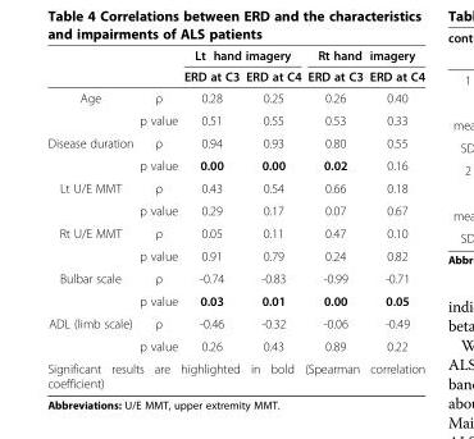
<table><thead><tr><td rowspan="2"></td><td rowspan="2"></td><td colspan="2">Lt hand imagery</td><td colspan="2">Rt hand imagery</td></tr><tr><td>ERD at C3</td><td>ERD at C4</td><td>ERD at C3</td><td>ERD at C4</td></tr></thead><tbody><tr><td rowspan="2">Age</td><td>ρ</td><td>0.28</td><td>0.25</td><td>0.26</td><td>0.40</td></tr><tr><td>p value</td><td>0.51</td><td>0.55</td><td>0.53</td><td>0.33</td></tr><tr><td rowspan="2">Disease duration</td><td>ρ</td><td>0.94</td><td>0.93</td><td>0.80</td><td>0.55</td></tr><tr><td>p value</td><td>0.00</td><td>0.00</td><td>0.02</td><td>0.16</td></tr><tr><td rowspan="2">Lt U/E MMT</td><td>ρ</td><td>0.43</td><td>0.54</td><td>0.66</td><td>0.18</td></tr><tr><td>p value</td><td>0.29</td><td>0.17</td><td>0.07</td><td>0.67</td></tr><tr><td rowspan="2">Rt U/E MMT</td><td>ρ</td><td>0.05</td><td>0.11</td><td>0.47</td><td>0.10</td></tr><tr><td>p value</td><td>0.91</td><td>0.79</td><td>0.24</td><td>0.82</td></tr><tr><td rowspan="2">Bulbar scale</td><td>ρ</td><td>-0.74</td><td>-0.83</td><td>-0.99</td><td>-0.71</td></tr><tr><td>p value</td><td>0.03</td><td>0.01</td><td>0.00</td><td>0.05</td></tr><tr><td rowspan="2">ADL (limb scale)</td><td>ρ</td><td>-0.46</td><td>-0.32</td><td>-0.06</td><td>-0.49</td></tr><tr><td>p value</td><td>0.26</td><td>0.43</td><td>0.89</td><td>0.22</td></tr><tr><td colspan="6">Significant results are highlighted in bold (Spearman correlation coefficient)</td></tr></tbody></table>